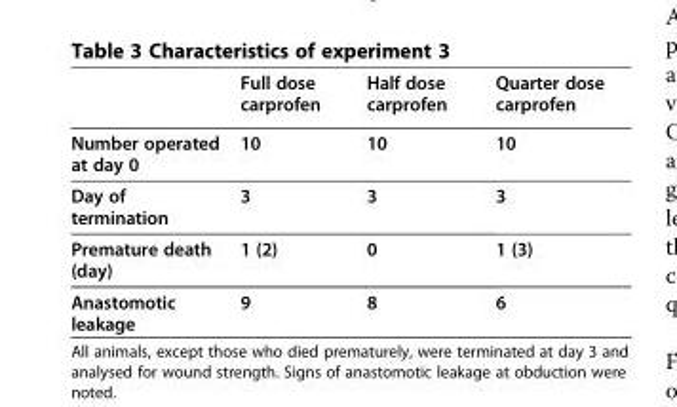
<table><thead><tr><td></td><td>Full dose carprofen</td><td>Half dose carprofen</td><td>Quarter dose carprofen</td></tr></thead><tbody><tr><td>Number operated at day 0</td><td>10</td><td>10</td><td>10</td></tr><tr><td>Day of termination</td><td>3</td><td>3</td><td>3</td></tr><tr><td>Premature death (day)</td><td>1 (2)</td><td>0</td><td>1 (3)</td></tr><tr><td>Anastomotic leakage</td><td>9</td><td>8</td><td>6</td></tr></tbody></table>